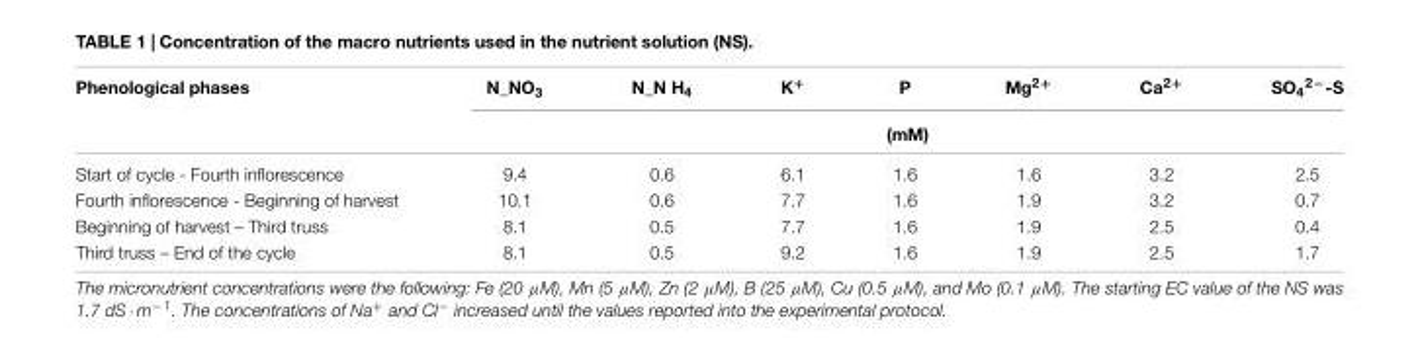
<table><thead><tr><td rowspan="2">Phenological phases</td><td>N_NO<sub>3</sub></td><td>N_N H<sub>4</sub></td><td>K<sup>+</sup></td><td>P</td><td>Mg<sup>2+</sup></td><td>Ca<sup>2+</sup></td><td>SO<sub>4</sub><sup>2−</sup>-S</td></tr><tr><td colspan="7">(mM)</td></tr></thead><tbody><tr><td>Start of cycle - Fourth inflorescence</td><td>9.4</td><td>0.6</td><td>6.1</td><td>1.6</td><td>1.6</td><td>3.2</td><td>2.5</td></tr><tr><td>Fourth inflorescence - Beginning of harvest</td><td>10.1</td><td>0.6</td><td>7.7</td><td>1.6</td><td>1.9</td><td>3.2</td><td>0.7</td></tr><tr><td>Beginning of harvest – Third truss</td><td>8.1</td><td>0.5</td><td>7.7</td><td>1.6</td><td>1.9</td><td>2.5</td><td>0.4</td></tr><tr><td>Third truss – End of the cycle</td><td>8.1</td><td>0.5</td><td>9.2</td><td>1.6</td><td>1.9</td><td>2.5</td><td>1.7</td></tr></tbody></table>